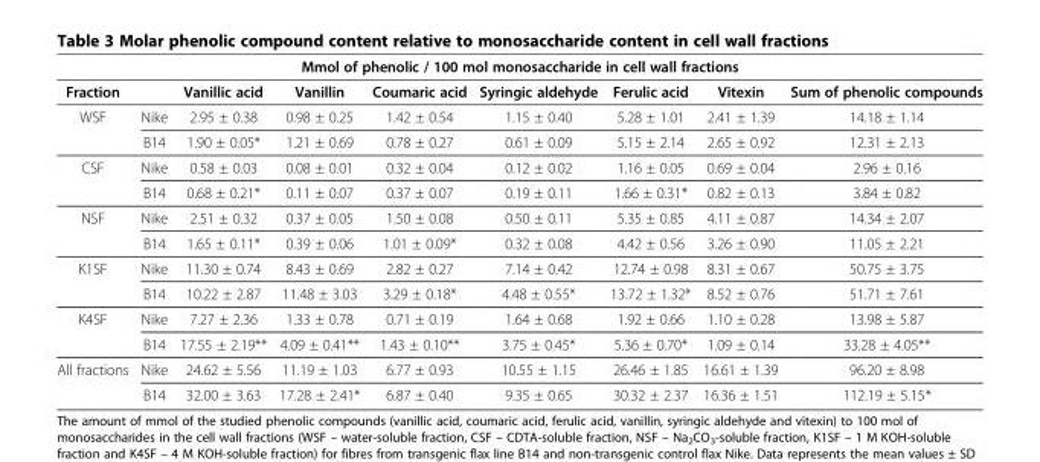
<table><thead><tr><td colspan="9">Mmol of phenolic / 100 mol monosaccharide in cell wall fractions</td></tr><tr><td>Fraction</td><td></td><td>Vanillic acid</td><td>Vanillin</td><td>Coumaric acid</td><td>Syringic aldehyde</td><td>Ferulic acid</td><td>Vitexin</td><td>Sum of phenolic compounds</td></tr></thead><tbody><tr><td rowspan="2">WSF</td><td>Nike</td><td>2.95 ± 0.38</td><td>0.98 ± 0.25</td><td>1.42 ± 0.54</td><td>1.15 ± 0.40</td><td>5.28 ± 1.01</td><td>2.41 ± 1.39</td><td>14.18 ± 1.14</td></tr><tr><td>B14</td><td>1.90 ± 0.05*</td><td>1.21 ± 0.69</td><td>0.78 ± 0.27</td><td>0.61 ± 0.09</td><td>5.15 ± 2.14</td><td>2.65 ± 0.92</td><td>12.31 ± 2.13</td></tr><tr><td rowspan="2">CSF</td><td>Nike</td><td>0.58 ± 0.03</td><td>0.08 ± 0.01</td><td>0.32 ± 0.04</td><td>0.12 ± 0.02</td><td>1.16 ± 0.05</td><td>0.69 ± 0.04</td><td>2.96 ± 0.16</td></tr><tr><td>B14</td><td>0.68 ± 0.21*</td><td>0.11 ± 0.07</td><td>0.37 ± 0.07</td><td>0.19 ± 0.11</td><td>1.66 ± 0.31*</td><td>0.82 ± 0.13</td><td>3.84 ± 0.82</td></tr><tr><td rowspan="2">NSF</td><td>Nike</td><td>2.51 ± 0.32</td><td>0.37 ± 0.05</td><td>1.50 ± 0.08</td><td>0.50 ± 0.11</td><td>5.35 ± 0.85</td><td>4.11 ± 0.87</td><td>14.34 ± 2.07</td></tr><tr><td>B14</td><td>1.65 ± 0.11*</td><td>0.39 ± 0.06</td><td>1.01 ± 0.09*</td><td>0.32 ± 0.08</td><td>4.42 ± 0.56</td><td>3.26 ± 0.90</td><td>11.05 ± 2.21</td></tr><tr><td rowspan="2">K1SF</td><td>Nike</td><td>11.30 ± 0.74</td><td>8.43 ± 0.69</td><td>2.82 ± 0.27</td><td>7.14 ± 0.42</td><td>12.74 ± 0.98</td><td>8.31 ± 0.67</td><td>50.75 ± 3.75</td></tr><tr><td>B14</td><td>10.22 ± 2.87</td><td>11.48 ± 3.03</td><td>3.29 ± 0.18*</td><td>4.48 ± 0.55*</td><td>13.72 ± 1.32*</td><td>8.52 ± 0.76</td><td>51.71 ± 7.61</td></tr><tr><td rowspan="2">K4SF</td><td>Nike</td><td>7.27 ± 2.36</td><td>1.33 ± 0.78</td><td>0.71 ± 0.19</td><td>1.64 ± 0.68</td><td>1.92 ± 0.66</td><td>1.10 ± 0.28</td><td>13.98 ± 5.87</td></tr><tr><td>B14</td><td>17.55 ± 2.19**</td><td>4.09 ± 0.41**</td><td>1.43 ± 0.10**</td><td>3.75 ± 0.45*</td><td>5.36 ± 0.70*</td><td>1.09 ± 0.14</td><td>33.28 ± 4.05**</td></tr><tr><td rowspan="2">All fractions</td><td>Nike</td><td>24.62 ± 5.56</td><td>11.19 ± 1.03</td><td>6.77 ± 0.93</td><td>10.55 ± 1.15</td><td>26.46 ± 1.85</td><td>16.61 ± 1.39</td><td>96.20 ± 8.98</td></tr><tr><td>B14</td><td>32.00 ± 3.63</td><td>17.28 ± 2.41*</td><td>6.87 ± 0.40</td><td>9.35 ± 0.65</td><td>30.32 ± 2.37</td><td>16.36 ± 1.51</td><td>112.19 ± 5.15*</td></tr></tbody></table>